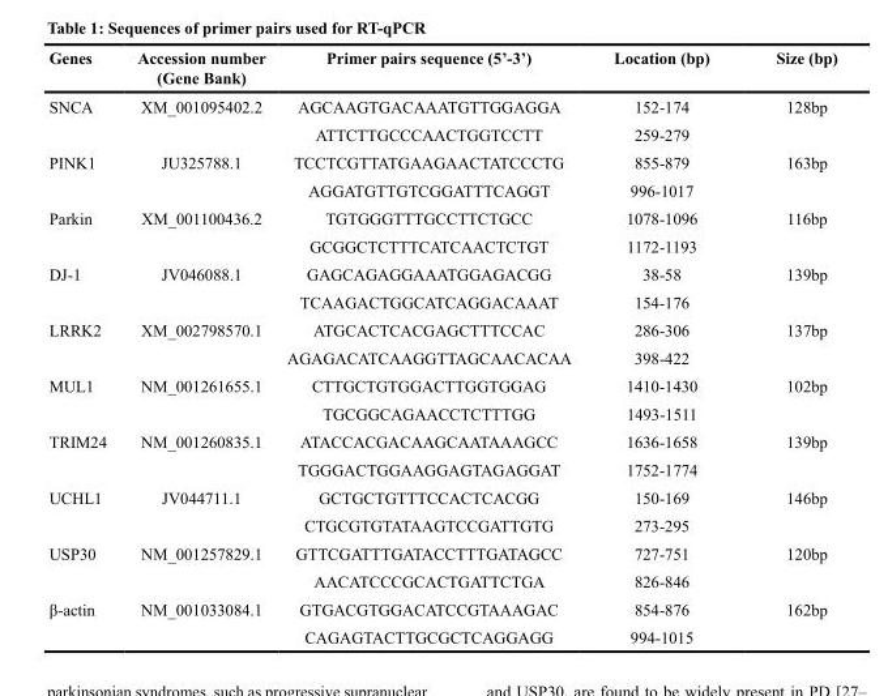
<table><thead><tr><td>Genes</td><td>Accession number (Gene Bank)</td><td>Primer pairs sequence (5’-3’)</td><td>Location (bp)</td><td>Size (bp)</td></tr></thead><tbody><tr><td rowspan="2">SNCA</td><td>XM_001095402.2</td><td>AGCAAGTGACAAATGTTGGAGGA</td><td>152-174</td><td>128bp</td></tr><tr><td></td><td>ATTCTTGCCCAACTGGTCCTT</td><td>259-279</td><td></td></tr><tr><td rowspan="2">PINK1</td><td>JU325788.1</td><td>TCCTCGTTATGAAGAACTATCCCTG</td><td>855-879</td><td>163bp</td></tr><tr><td></td><td>AGGATGTTGTCGGATTTCAGGT</td><td>996-1017</td><td></td></tr><tr><td rowspan="2">Parkin</td><td>XM_001100436.2</td><td>TGTGGGTTTGCCTTCTGCC</td><td>1078-1096</td><td>116bp</td></tr><tr><td></td><td>GCGGCTCTTTCATCAACTCTGT</td><td>1172-1193</td><td></td></tr><tr><td rowspan="2">DJ-1</td><td>JV046088.1</td><td>GAGCAGAGGAAATGGAGACGG</td><td>38-58</td><td>139bp</td></tr><tr><td></td><td>TCAAGACTGGCATCAGGACAAAT</td><td>154-176</td><td></td></tr><tr><td rowspan="2">LRRK2</td><td>XM_002798570.1</td><td>ATGCACTCACGAGCTTTCCAC</td><td>286-306</td><td>137bp</td></tr><tr><td></td><td>AGAGACATCAAGGTTAGCAACACAA</td><td>398-422</td><td></td></tr><tr><td rowspan="2">MUL1</td><td>NM_001261655.1</td><td>CTTGCTGTGGACTTGGTGGAG</td><td>1410-1430</td><td>102bp</td></tr><tr><td></td><td>TGCGGCAGAACCTCTTTGG</td><td>1493-1511</td><td></td></tr><tr><td rowspan="2">TRIM24</td><td>NM_001260835.1</td><td>ATACCACGACAAGCAATAAAGCC</td><td>1636-1658</td><td>139bp</td></tr><tr><td></td><td>TGGGACTGGAAGGAGTAGAGGAT</td><td>1752-1774</td><td></td></tr><tr><td rowspan="2">UCHL1</td><td>JV044711.1</td><td>GCTGCTGTTTCCACTCACGG</td><td>150-169</td><td>146bp</td></tr><tr><td></td><td>CTGCGTGTATAAGTCCGATTGTG</td><td>273-295</td><td></td></tr><tr><td rowspan="2">USP30</td><td>NM_001257829.1</td><td>GTTCGATTTGATACCTTTGATAGCC</td><td>727-751</td><td>120bp</td></tr><tr><td></td><td>AACATCCCGCACTGATTCTGA</td><td>826-846</td><td></td></tr><tr><td rowspan="2">β-actin</td><td>NM_001033084.1</td><td>GTGACGTGGACATCCGTAAAGAC</td><td>854-876</td><td>162bp</td></tr><tr><td></td><td>CAGAGTACTTGCGCTCAGGAGG</td><td>994-1015</td><td></td></tr></tbody></table>